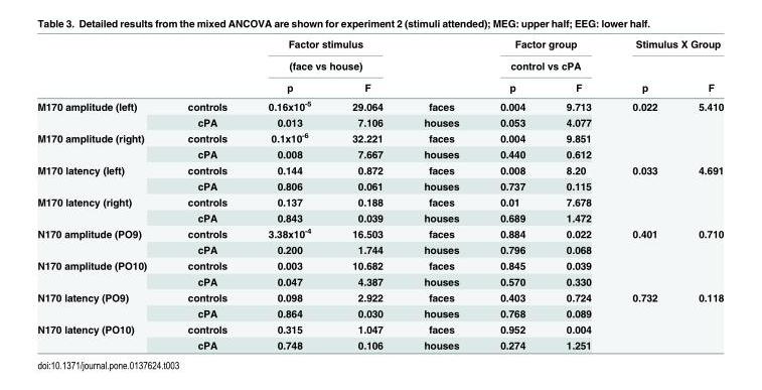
<table><thead><tr><td rowspan="3"></td><td rowspan="3"></td><td rowspan="2" colspan="2">Factor stimulus (face vs house)</td><td rowspan="3"></td><td rowspan="2" colspan="2">Factor group control vs cPA</td><td colspan="2">Stimulus X Group</td></tr><tr><td rowspan="2">p</td><td rowspan="2">F</td></tr><tr><td>p</td><td>F</td><td>p</td><td>F</td></tr></thead><tbody><tr><td rowspan="2">M170 amplitude (left)</td><td>controls</td><td>0.16x10<sup>-5</sup></td><td>29.064</td><td>faces</td><td>0.004</td><td>9.713</td><td rowspan="4">0.022</td><td rowspan="4">5.410</td></tr><tr><td>cPA</td><td>0.013</td><td>7.106</td><td>houses</td><td>0.053</td><td>4.077</td></tr><tr><td rowspan="2">M170 amplitude (right)</td><td>controls</td><td>0.1x10<sup>-6</sup></td><td>32.221</td><td>faces</td><td>0.004</td><td>9.851</td></tr><tr><td>cPA</td><td>0.008</td><td>7.667</td><td>houses</td><td>0.440</td><td>0.612</td></tr><tr><td rowspan="2">M170 latency (left)</td><td>controls</td><td>0.144</td><td>0.872</td><td>faces</td><td>0.008</td><td>8.20</td><td rowspan="4">0.033</td><td rowspan="4">4.691</td></tr><tr><td>cPA</td><td>0.806</td><td>0.061</td><td>houses</td><td>0.737</td><td>0.115</td></tr><tr><td rowspan="2">M170 latency (right)</td><td>controls</td><td>0.137</td><td>0.188</td><td>faces</td><td>0.01</td><td>7.678</td></tr><tr><td>cPA</td><td>0.843</td><td>0.039</td><td>houses</td><td>0.689</td><td>1.472</td></tr><tr><td rowspan="2">N170 amplitude (PO9)</td><td>controls</td><td>3.38x10<sup>-4</sup></td><td>16.503</td><td>faces</td><td>0.884</td><td>0.022</td><td rowspan="4">0.401</td><td rowspan="4">0.710</td></tr><tr><td>cPA</td><td>0.200</td><td>1.744</td><td>houses</td><td>0.796</td><td>0.068</td></tr><tr><td rowspan="2">N170 amplitude (PO10)</td><td>controls</td><td>0.003</td><td>10.682</td><td>faces</td><td>0.845</td><td>0.039</td></tr><tr><td>cPA</td><td>0.047</td><td>4.387</td><td>houses</td><td>0.570</td><td>0.330</td></tr><tr><td rowspan="2">N170 latency (PO9)</td><td>controls</td><td>0.098</td><td>2.922</td><td>faces</td><td>0.403</td><td>0.724</td><td rowspan="4">0.732</td><td rowspan="4">0.118</td></tr><tr><td>cPA</td><td>0.864</td><td>0.030</td><td>houses</td><td>0.768</td><td>0.089</td></tr><tr><td rowspan="2">N170 latency (PO10)</td><td>controls</td><td>0.315</td><td>1.047</td><td>faces</td><td>0.952</td><td>0.004</td></tr><tr><td>cPA</td><td>0.748</td><td>0.106</td><td>houses</td><td>0.274</td><td>1.251</td></tr></tbody></table>